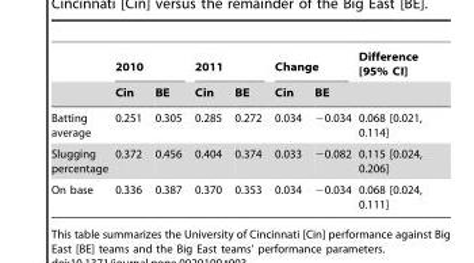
<table><thead><tr><td rowspan="2"></td><td colspan="2">2010</td><td colspan="2">2011</td><td colspan="2">Change</td><td rowspan="2">Difference [95% CI]</td></tr><tr><td>Cin</td><td>BE</td><td>Cin</td><td>BE</td><td>Cin</td><td>BE</td></tr></thead><tbody><tr><td>Batting average</td><td>0.251</td><td>0.305</td><td>0.285</td><td>0.272</td><td>0.034</td><td>−0.034</td><td>0.068 [0.021, 0.114]</td></tr><tr><td>Slugging percentage</td><td>0.372</td><td>0.456</td><td>0.404</td><td>0.374</td><td>0.033</td><td>−0.082</td><td>0.115 [0.024, 0.206]</td></tr><tr><td>On base</td><td>0.336</td><td>0.387</td><td>0.370</td><td>0.353</td><td>0.034</td><td>−0.034</td><td>0.068 [0.024, 0.111]</td></tr></tbody></table>